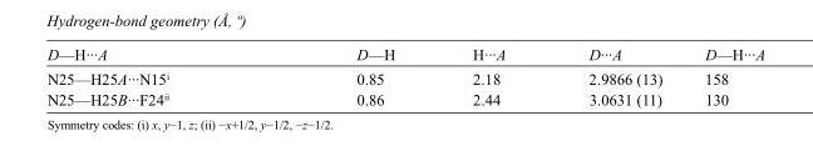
<table><tbody><tr><td>D—H···A</td><td>D—H</td><td>H···A</td><td>D···A</td><td>D—H···A</td></tr><tr><td>N25—H25A···N15<sup>i</sup></td><td>0.85</td><td>2.18</td><td>2.9866 (13)</td><td>158</td></tr><tr><td>N25—H25B···F24<sup>ii</sup></td><td>0.86</td><td>2.44</td><td>3.0631 (11)</td><td>130</td></tr></tbody></table>